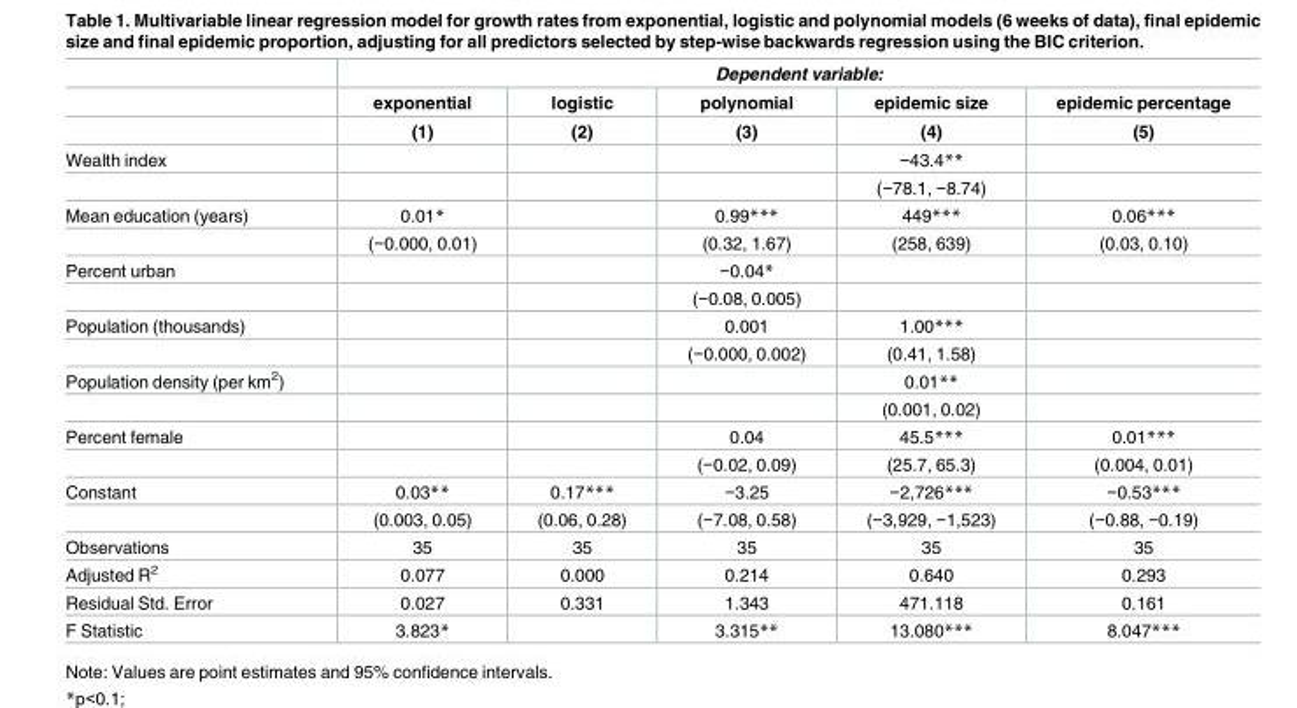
<table><thead><tr><td rowspan="3"></td><td colspan="5">Dependent variable:</td></tr><tr><td rowspan="2">exponential (1)</td><td rowspan="2">logistic (2)</td><td rowspan="2">polynomial (3)</td><td rowspan="2">epidemic size (4)</td><td rowspan="2">epidemic percentage (5)</td></tr><tr></tr></thead><tbody><tr><td rowspan="2">Wealth index</td><td></td><td></td><td></td><td>−43.4**</td><td></td></tr><tr><td></td><td></td><td></td><td>(−78.1, −8.74)</td><td></td></tr><tr><td rowspan="2">Mean education (years)</td><td>0.01*</td><td></td><td>0.99***</td><td>449***</td><td>0.06***</td></tr><tr><td>(−0.000, 0.01)</td><td></td><td>(0.32, 1.67)</td><td>(258, 639)</td><td>(0.03, 0.10)</td></tr><tr><td rowspan="2">Percent urban</td><td></td><td></td><td>−0.04*</td><td></td><td></td></tr><tr><td></td><td></td><td>(−0.08, 0.005)</td><td></td><td></td></tr><tr><td rowspan="2">Population (thousands)</td><td></td><td></td><td>0.001</td><td>1.00***</td><td></td></tr><tr><td></td><td></td><td>(−0.000, 0.002)</td><td>(0.41, 1.58)</td><td></td></tr><tr><td rowspan="2">Population density (per km<sup>2</sup>)</td><td></td><td></td><td></td><td>0.01**</td><td></td></tr><tr><td></td><td></td><td></td><td>(0.001, 0.02)</td><td></td></tr><tr><td rowspan="2">Percent female</td><td></td><td></td><td>0.04</td><td>45.5***</td><td>0.01***</td></tr><tr><td></td><td></td><td>(−0.02, 0.09)</td><td>(25.7, 65.3)</td><td>(0.004, 0.01)</td></tr><tr><td rowspan="2">Constant</td><td>0.03**</td><td>0.17***</td><td>−3.25</td><td>−2,726***</td><td>−0.53***</td></tr><tr><td>(0.003, 0.05)</td><td>(0.06, 0.28)</td><td>(−7.08, 0.58)</td><td>(−3,929, −1,523)</td><td>(−0.88, −0.19)</td></tr><tr><td>Observations</td><td>35</td><td>35</td><td>35</td><td>35</td><td>35</td></tr><tr><td>Adjusted R<sup>2</sup></td><td>0.077</td><td>0.000</td><td>0.214</td><td>0.640</td><td>0.293</td></tr><tr><td>Residual Std. Error</td><td>0.027</td><td>0.331</td><td>1.343</td><td>471.118</td><td>0.161</td></tr><tr><td>F Statistic</td><td>3.823*</td><td></td><td>3.315**</td><td>13.080***</td><td>8.047***</td></tr></tbody></table>